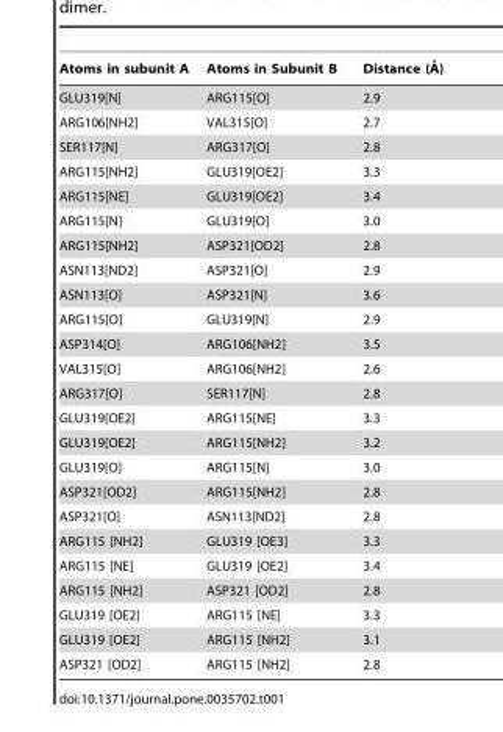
<table><thead><tr><td>Atoms in subunit A</td><td>Atoms in Subunit B</td><td>Distance (A˚ )</td></tr></thead><tbody><tr><td>GLU319[N]</td><td>ARG115[O]</td><td>2.9</td></tr><tr><td>ARG106[NH2]</td><td>VAL315[O]</td><td>2.7</td></tr><tr><td>SER117[N]</td><td>ARG317[O]</td><td>2.8</td></tr><tr><td>ARG115[NH2]</td><td>GLU319[OE2]</td><td>3.3</td></tr><tr><td>ARG115[NE]</td><td>GLU319[OE2]</td><td>3.4</td></tr><tr><td>ARG115[N]</td><td>GLU319[O]</td><td>3.0</td></tr><tr><td>ARG115[NH2]</td><td>ASP321[OD2]</td><td>2.8</td></tr><tr><td>ASN113[ND2]</td><td>ASP321[O]</td><td>2.9</td></tr><tr><td>ASN113[O]</td><td>ASP321[N]</td><td>3.6</td></tr><tr><td>ARG115[O]</td><td>GLU319[N]</td><td>2.9</td></tr><tr><td>ASP314[O]</td><td>ARG106[NH2]</td><td>3.5</td></tr><tr><td>VAL315[O]</td><td>ARG106[NH2]</td><td>2.6</td></tr><tr><td>ARG317[O]</td><td>SER117[N]</td><td>2.8</td></tr><tr><td>GLU319[OE2]</td><td>ARG115[NE]</td><td>3.3</td></tr><tr><td>GLU319[OE2]</td><td>ARG115[NH2]</td><td>3.2</td></tr><tr><td>GLU319[O]</td><td>ARG115[N]</td><td>3.0</td></tr><tr><td>ASP321[OD2]</td><td>ARG115[NH2]</td><td>2.8</td></tr><tr><td>ASP321[O]</td><td>ASN113[ND2]</td><td>2.8</td></tr><tr><td>ARG115 [NH2]</td><td>GLU319 [OE3]</td><td>3.3</td></tr><tr><td>ARG115 [NE]</td><td>GLU319 [OE2]</td><td>3.4</td></tr><tr><td>ARG115 [NH2]</td><td>ASP321 [OD2]</td><td>2.8</td></tr><tr><td>GLU319 [OE2]</td><td>ARG115 [NE]</td><td>3.3</td></tr><tr><td>GLU319 [OE2]</td><td>ARG115 [NH2]</td><td>3.1</td></tr><tr><td>ASP321 [OD2]</td><td>ARG115 [NH2]</td><td>2.8</td></tr></tbody></table>